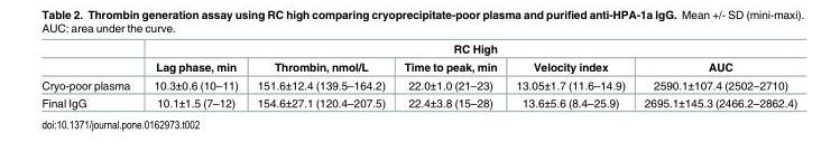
<table><thead><tr><td rowspan="2"></td><td colspan="5">RC High</td></tr><tr><td>Lag phase, min</td><td>Thrombin, nmol/L</td><td>Time to peak, min</td><td>Velocity index</td><td>AUC</td></tr></thead><tbody><tr><td>Cryo-poor plasma</td><td>10.3±0.6 (10–11)</td><td>151.6±12.4 (139.5–164.2)</td><td>22.0±1.0 (21–23)</td><td>13.05±1.7 (11.6–14.9)</td><td>2590.1±107.4 (2502–2710)</td></tr><tr><td>Final IgG</td><td>10.1±1.5 (7–12)</td><td>154.6±27.1 (120.4–207.5)</td><td>22.4±3.8 (15–28)</td><td>13.6±5.6 (8.4–25.9)</td><td>2695.1±145.3 (2466.2–2862.4)</td></tr></tbody></table>